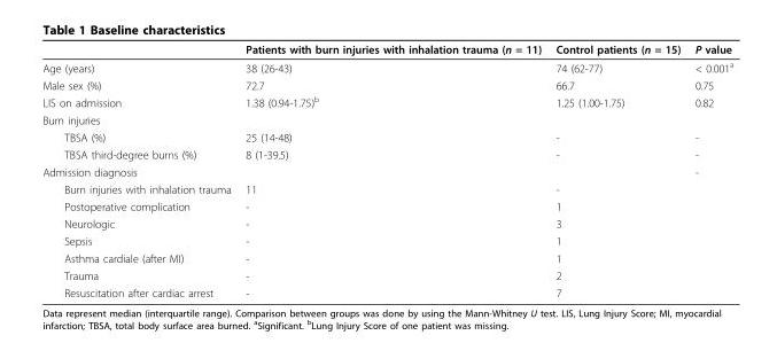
<table><thead><tr><td></td><td>Patients with burn injuries with inhalation trauma (n = 11)</td><td>Control patients (n = 15)</td><td>P value</td></tr></thead><tbody><tr><td>Age (years)</td><td>38 (26-43)</td><td>74 (62-77)</td><td>&lt; 0.001<sup>a</sup></td></tr><tr><td>Male sex (%)</td><td>72.7</td><td>66.7</td><td>0.75</td></tr><tr><td>LIS on admission</td><td>1.38 (0.94-1.75)<sup>b</sup></td><td>1.25 (1.00-1.75)</td><td>0.82</td></tr><tr><td colspan="4">Burn injuries</td></tr><tr><td>TBSA (%)</td><td>25 (14-48)</td><td>-</td><td>-</td></tr><tr><td>TBSA third-degree burns (%)</td><td>8 (1-39.5)</td><td>-</td><td>-</td></tr><tr><td>Admission diagnosis</td><td></td><td></td><td>-</td></tr><tr><td>Burn injuries with inhalation trauma</td><td>11</td><td>-</td><td></td></tr><tr><td>Postoperative complication</td><td>-</td><td>1</td><td></td></tr><tr><td>Neurologic</td><td>-</td><td>3</td><td></td></tr><tr><td>Sepsis</td><td>-</td><td>1</td><td></td></tr><tr><td>Asthma cardiale (after MI)</td><td>-</td><td>1</td><td></td></tr><tr><td>Trauma</td><td>-</td><td>2</td><td></td></tr><tr><td>Resuscitation after cardiac arrest</td><td>-</td><td>7</td><td></td></tr></tbody></table>